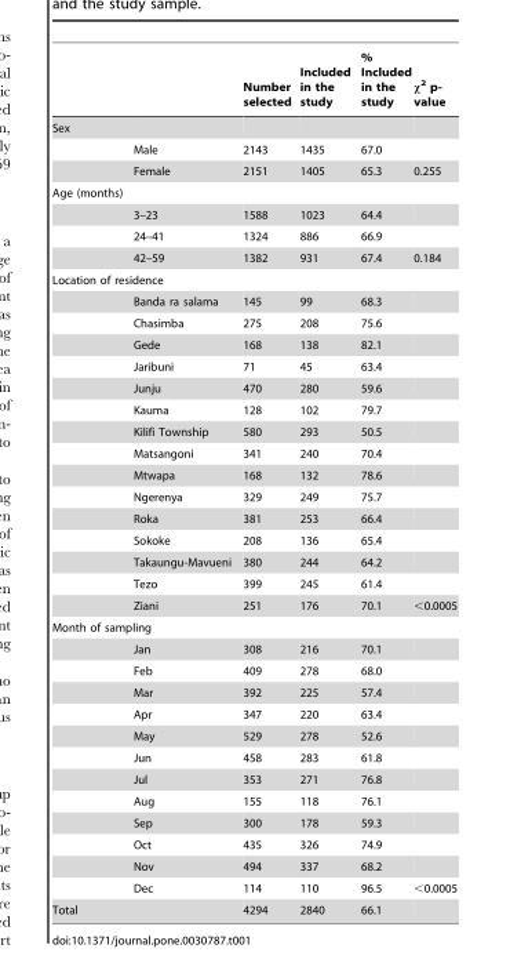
<table><thead><tr><td></td><td></td><td>Number selected</td><td>Included in the study</td><td>% Included in the study</td><td>χ<sup>2</sup> p- value</td></tr></thead><tbody><tr><td colspan="6">Sex</td></tr><tr><td></td><td>Male</td><td>2143</td><td>1435</td><td>67.0</td><td></td></tr><tr><td></td><td>Female</td><td>2151</td><td>1405</td><td>65.3</td><td>0.255</td></tr><tr><td colspan="6">Age (months)</td></tr><tr><td></td><td>3–23</td><td>1588</td><td>1023</td><td>64.4</td><td></td></tr><tr><td></td><td>24–41</td><td>1324</td><td>886</td><td>66.9</td><td></td></tr><tr><td></td><td>42–59</td><td>1382</td><td>931</td><td>67.4</td><td>0.184</td></tr><tr><td colspan="6">Location of residence</td></tr><tr><td></td><td>Banda ra salama</td><td>145</td><td>99</td><td>68.3</td><td></td></tr><tr><td></td><td>Chasimba</td><td>275</td><td>208</td><td>75.6</td><td></td></tr><tr><td></td><td>Gede</td><td>168</td><td>138</td><td>82.1</td><td></td></tr><tr><td></td><td>Jaribuni</td><td>71</td><td>45</td><td>63.4</td><td></td></tr><tr><td></td><td>Junju</td><td>470</td><td>280</td><td>59.6</td><td></td></tr><tr><td></td><td>Kauma</td><td>128</td><td>102</td><td>79.7</td><td></td></tr><tr><td></td><td>Kilifi Township</td><td>580</td><td>293</td><td>50.5</td><td></td></tr><tr><td></td><td>Matsangoni</td><td>341</td><td>240</td><td>70.4</td><td></td></tr><tr><td></td><td>Mtwapa</td><td>168</td><td>132</td><td>78.6</td><td></td></tr><tr><td></td><td>Ngerenya</td><td>329</td><td>249</td><td>75.7</td><td></td></tr><tr><td></td><td>Roka</td><td>381</td><td>253</td><td>66.4</td><td></td></tr><tr><td></td><td>Sokoke</td><td>208</td><td>136</td><td>65.4</td><td></td></tr><tr><td></td><td>Takaungu-Mavueni</td><td>380</td><td>244</td><td>64.2</td><td></td></tr><tr><td></td><td>Tezo</td><td>399</td><td>245</td><td>61.4</td><td></td></tr><tr><td></td><td>Ziani</td><td>251</td><td>176</td><td>70.1</td><td>&lt;0.0005</td></tr><tr><td colspan="6">Month of sampling</td></tr><tr><td></td><td>Jan</td><td>308</td><td>216</td><td>70.1</td><td></td></tr><tr><td></td><td>Feb</td><td>409</td><td>278</td><td>68.0</td><td></td></tr><tr><td></td><td>Mar</td><td>392</td><td>225</td><td>57.4</td><td></td></tr><tr><td></td><td>Apr</td><td>347</td><td>220</td><td>63.4</td><td></td></tr><tr><td></td><td>May</td><td>529</td><td>278</td><td>52.6</td><td></td></tr><tr><td></td><td>Jun</td><td>458</td><td>283</td><td>61.8</td><td></td></tr><tr><td></td><td>Jul</td><td>353</td><td>271</td><td>76.8</td><td></td></tr><tr><td></td><td>Aug</td><td>155</td><td>118</td><td>76.1</td><td></td></tr><tr><td></td><td>Sep</td><td>300</td><td>178</td><td>59.3</td><td></td></tr><tr><td></td><td>Oct</td><td>435</td><td>326</td><td>74.9</td><td></td></tr><tr><td></td><td>Nov</td><td>494</td><td>337</td><td>68.2</td><td></td></tr><tr><td></td><td>Dec</td><td>114</td><td>110</td><td>96.5</td><td>&lt;0.0005</td></tr><tr><td>Total</td><td></td><td>4294</td><td>2840</td><td>66.1</td><td></td></tr></tbody></table>